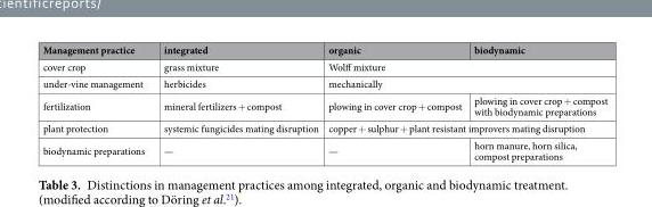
<table><thead><tr><td>Management practice</td><td>integrated</td><td>organic</td><td>biodynamic</td></tr></thead><tbody><tr><td>cover crop</td><td>grass mixture</td><td colspan="2">Wolff mixture</td></tr><tr><td>under-vine management</td><td>herbicides</td><td colspan="2">mechanically</td></tr><tr><td>fertilization</td><td>mineral fertilizers + compost</td><td>plowing in cover crop + compost</td><td>plowing in cover crop + compost with biodynamic preparations</td></tr><tr><td>plant protection</td><td>systemic fungicides mating disruption</td><td colspan="2">copper + sulphur + plant resistant improvers mating disruption</td></tr><tr><td>biodynamic preparations</td><td>—</td><td>—</td><td>horn manure, horn silica, compost preparations</td></tr></tbody></table>